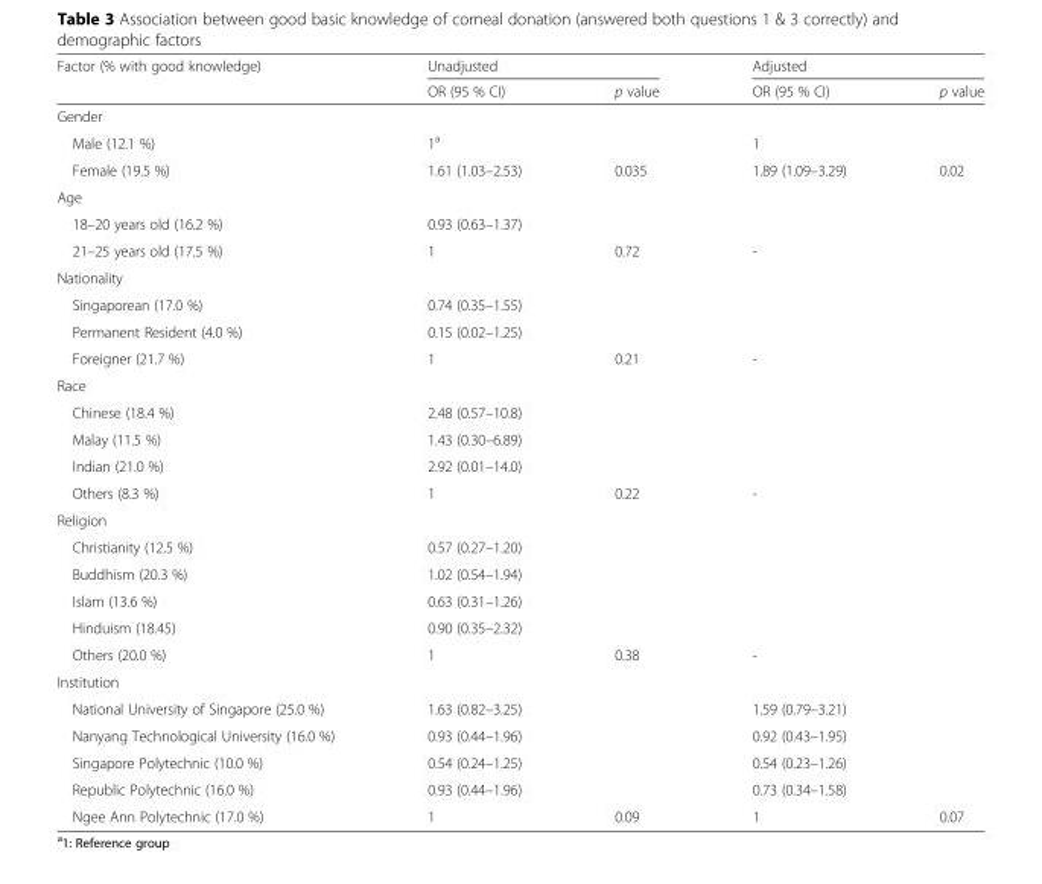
<table><thead><tr><td rowspan="2">Factor (% with good knowledge)</td><td colspan="2">Unadjusted</td><td colspan="2">Adjusted</td></tr><tr><td>OR (95 % CI)</td><td>p value</td><td>OR (95 % CI)</td><td>p value</td></tr></thead><tbody><tr><td colspan="5">Gender</td></tr><tr><td>Male (12.1 %)</td><td>1<sup>a</sup></td><td></td><td>1</td><td></td></tr><tr><td>Female (19.5 %)</td><td>1.61 (1.03–2.53)</td><td>0.035</td><td>1.89 (1.09–3.29)</td><td>0.02</td></tr><tr><td colspan="5">Age</td></tr><tr><td>18–20 years old (16.2 %)</td><td>0.93 (0.63–1.37)</td><td></td><td></td><td></td></tr><tr><td>21–25 years old (17.5 %)</td><td>1</td><td>0.72</td><td>-</td><td></td></tr><tr><td colspan="5">Nationality</td></tr><tr><td>Singaporean (17.0 %)</td><td>0.74 (0.35–1.55)</td><td></td><td></td><td></td></tr><tr><td>Permanent Resident (4.0 %)</td><td>0.15 (0.02–1.25)</td><td></td><td></td><td></td></tr><tr><td>Foreigner (21.7 %)</td><td>1</td><td>0.21</td><td>-</td><td></td></tr><tr><td colspan="5">Race</td></tr><tr><td>Chinese (18.4 %)</td><td>2.48 (0.57–10.8)</td><td></td><td></td><td></td></tr><tr><td>Malay (11.5 %)</td><td>1.43 (0.30–6.89)</td><td></td><td></td><td></td></tr><tr><td>Indian (21.0 %)</td><td>2.92 (0.01–14.0)</td><td></td><td></td><td></td></tr><tr><td>Others (8.3 %)</td><td>1</td><td>0.22</td><td>-</td><td></td></tr><tr><td colspan="5">Religion</td></tr><tr><td>Christianity (12.5 %)</td><td>0.57 (0.27–1.20)</td><td></td><td></td><td></td></tr><tr><td>Buddhism (20.3 %)</td><td>1.02 (0.54–1.94)</td><td></td><td></td><td></td></tr><tr><td>Islam (13.6 %)</td><td>0.63 (0.31–1.26)</td><td></td><td></td><td></td></tr><tr><td>Hinduism (18.45)</td><td>0.90 (0.35–2.32)</td><td></td><td></td><td></td></tr><tr><td>Others (20.0 %)</td><td>1</td><td>0.38</td><td>-</td><td></td></tr><tr><td colspan="5">Institution</td></tr><tr><td>National University of Singapore (25.0 %)</td><td>1.63 (0.82–3.25)</td><td></td><td>1.59 (0.79–3.21)</td><td></td></tr><tr><td>Nanyang Technological University (16.0 %)</td><td>0.93 (0.44–1.96)</td><td></td><td>0.92 (0.43–1.95)</td><td></td></tr><tr><td>Singapore Polytechnic (10.0 %)</td><td>0.54 (0.24–1.25)</td><td></td><td>0.54 (0.23–1.26)</td><td></td></tr><tr><td>Republic Polytechnic (16.0 %)</td><td>0.93 (0.44–1.96)</td><td></td><td>0.73 (0.34–1.58)</td><td></td></tr><tr><td>Ngee Ann Polytechnic (17.0 %)</td><td>1</td><td>0.09</td><td>1</td><td>0.07</td></tr></tbody></table>